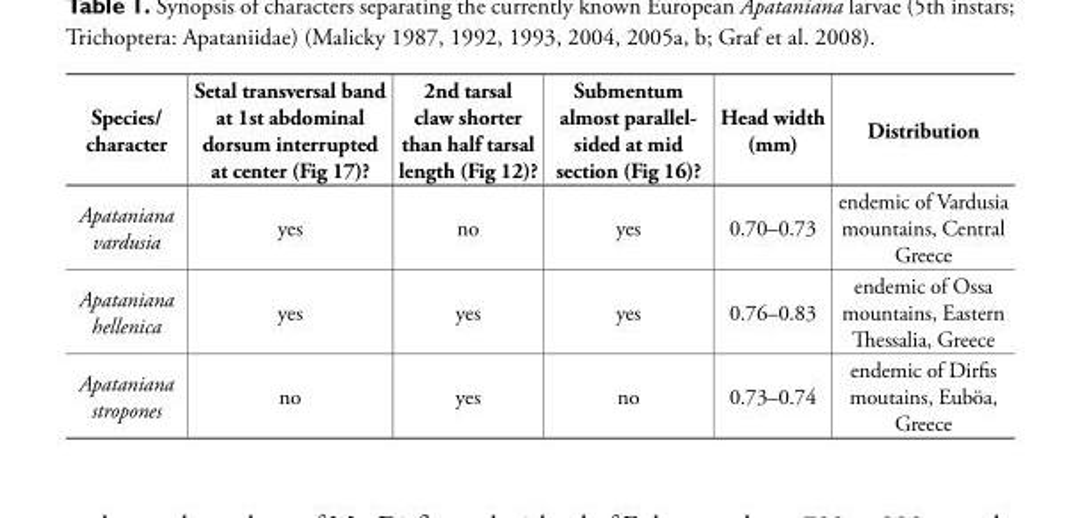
<table><thead><tr><td>Species/ character</td><td>Setal transversal band at 1st abdominal dorsum interrupted at center (Fig 17)?</td><td>2nd tarsal claw shorter than half tarsal length (Fig 12)?</td><td>Submentum almost parallel- sided at mid section (Fig 16)?</td><td>Head width (mm)</td><td>Distribution</td></tr></thead><tbody><tr><td>Apataniana vardusia</td><td>yes</td><td>no</td><td>yes</td><td>0.70–0.73</td><td>endemic of Vardusia mountains, Central Greece</td></tr><tr><td>Apataniana hellenica</td><td>yes</td><td>yes</td><td>yes</td><td>0.76–0.83</td><td>endemic of Ossa mountains, Eastern Thessalia, Greece</td></tr><tr><td>Apataniana stropones</td><td>no</td><td>yes</td><td>no</td><td>0.73–0.74</td><td>endemic of Dirfis moutains, Euböa, Greece</td></tr></tbody></table>